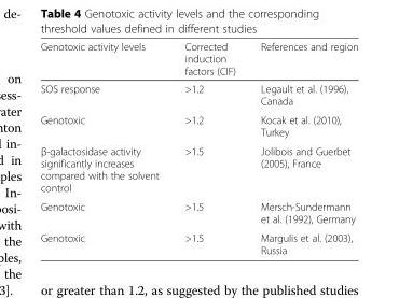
<table><thead><tr><td>Genotoxic activity levels</td><td>Corrected induction factors (CIF)</td><td>References and region</td></tr></thead><tbody><tr><td>SOS response</td><td>&gt;1.2</td><td>Legault et al. (1996), Canada</td></tr><tr><td>Genotoxic</td><td>&gt;1.2</td><td>Kocak et al. (2010), Turkey</td></tr><tr><td>β-galactosidase activity significantly increases compared with the solvent control</td><td>&gt;1.5</td><td>Jolibois and Guerbet (2005), France</td></tr><tr><td>Genotoxic</td><td>&gt;1.5</td><td>Mersch-Sundermann et al. (1992), Germany</td></tr><tr><td>Genotoxic</td><td>&gt;1.5</td><td>Margulis et al. (2003), Russia</td></tr></tbody></table>